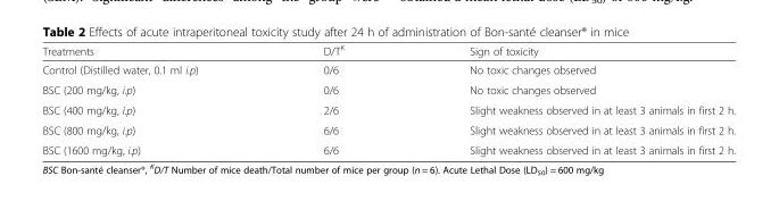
<table><thead><tr><td>Treatments</td><td>D/T<sup>K</sup></td><td>Sign of toxicity</td></tr></thead><tbody><tr><td>Control (Distilled water, 0.1 ml i.p)</td><td>0/6</td><td>No toxic changes observed</td></tr><tr><td>BSC (200 mg/kg, i.p)</td><td>0/6</td><td>No toxic changes observed</td></tr><tr><td>BSC (400 mg/kg, i.p)</td><td>2/6</td><td>Slight weakness observed in at least 3 animals in first 2 h.</td></tr><tr><td>BSC (800 mg/kg, i.p)</td><td>6/6</td><td>Slight weakness observed in at least 3 animals in first 2 h.</td></tr><tr><td>BSC (1600 mg/kg, i.p)</td><td>6/6</td><td>Slight weakness observed in at least 3 animals in first 2 h.</td></tr></tbody></table>